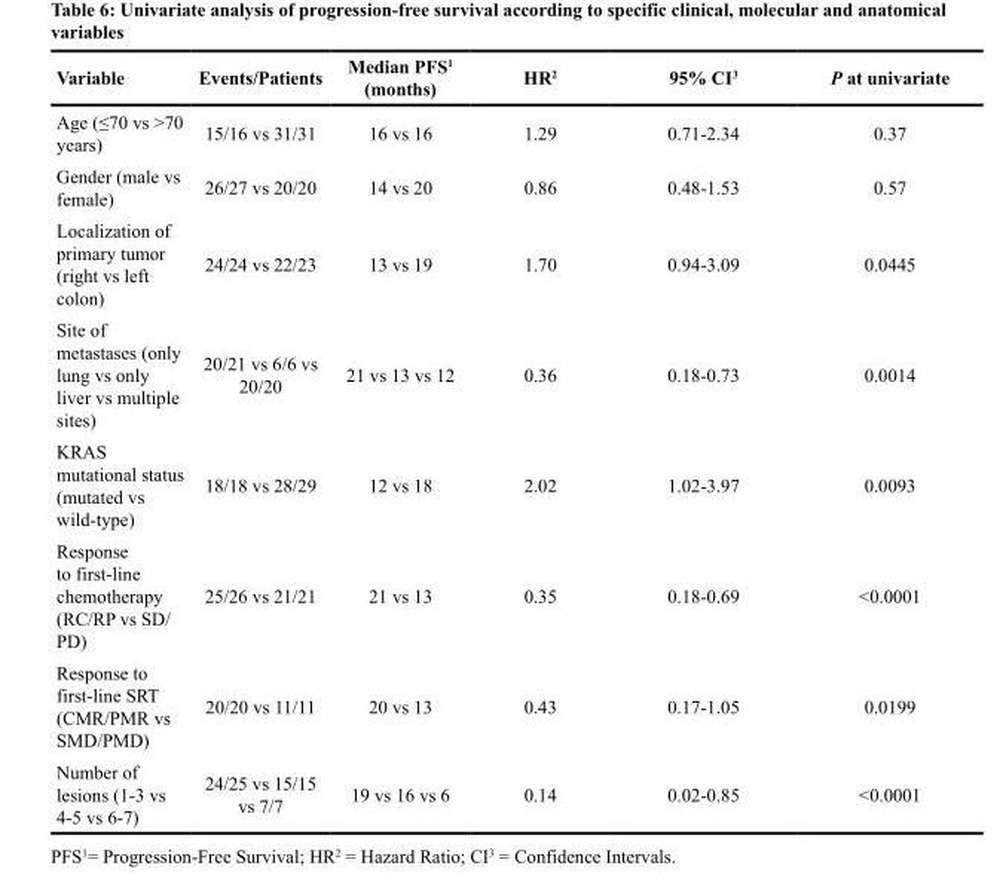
<table><thead><tr><td>Variable</td><td>Events/Patients</td><td>Median PFS<sup>1</sup> (months)</td><td>HR<sup>2</sup></td><td>95% CI<sup>3</sup></td><td>P at univariate</td></tr></thead><tbody><tr><td>Age (≤70 vs &gt;70 years)</td><td>15/16 vs 31/31</td><td>16 vs 16</td><td>1.29</td><td>0.71-2.34</td><td>0.37</td></tr><tr><td>Gender (male vs female)</td><td>26/27 vs 20/20</td><td>14 vs 20</td><td>0.86</td><td>0.48-1.53</td><td>0.57</td></tr><tr><td>Localization of primary tumor (right vs left colon)</td><td>24/24 vs 22/23</td><td>13 vs 19</td><td>1.70</td><td>0.94-3.09</td><td>0.0445</td></tr><tr><td>Site of metastases (only lung vs only liver vs multiple sites)</td><td>20/21 vs 6/6 vs 20/20</td><td>21 vs 13 vs 12</td><td>0.36</td><td>0.18-0.73</td><td>0.0014</td></tr><tr><td>KRAS mutational status (mutated vs wild-type)</td><td>18/18 vs 28/29</td><td>12 vs 18</td><td>2.02</td><td>1.02-3.97</td><td>0.0093</td></tr><tr><td>Response to first-line chemotherapy (RC/RP vs SD/ PD)</td><td>25/26 vs 21/21</td><td>21 vs 13</td><td>0.35</td><td>0.18-0.69</td><td>&lt;0.0001</td></tr><tr><td>Response to first-line SRT (CMR/PMR vs SMD/PMD)</td><td>20/20 vs 11/11</td><td>20 vs 13</td><td>0.43</td><td>0.17-1.05</td><td>0.0199</td></tr><tr><td>Number of lesions (1-3 vs 4-5 vs 6-7)</td><td>24/25 vs 15/15 vs 7/7</td><td>19 vs 16 vs 6</td><td>0.14</td><td>0.02-0.85</td><td>&lt;0.0001</td></tr></tbody></table>